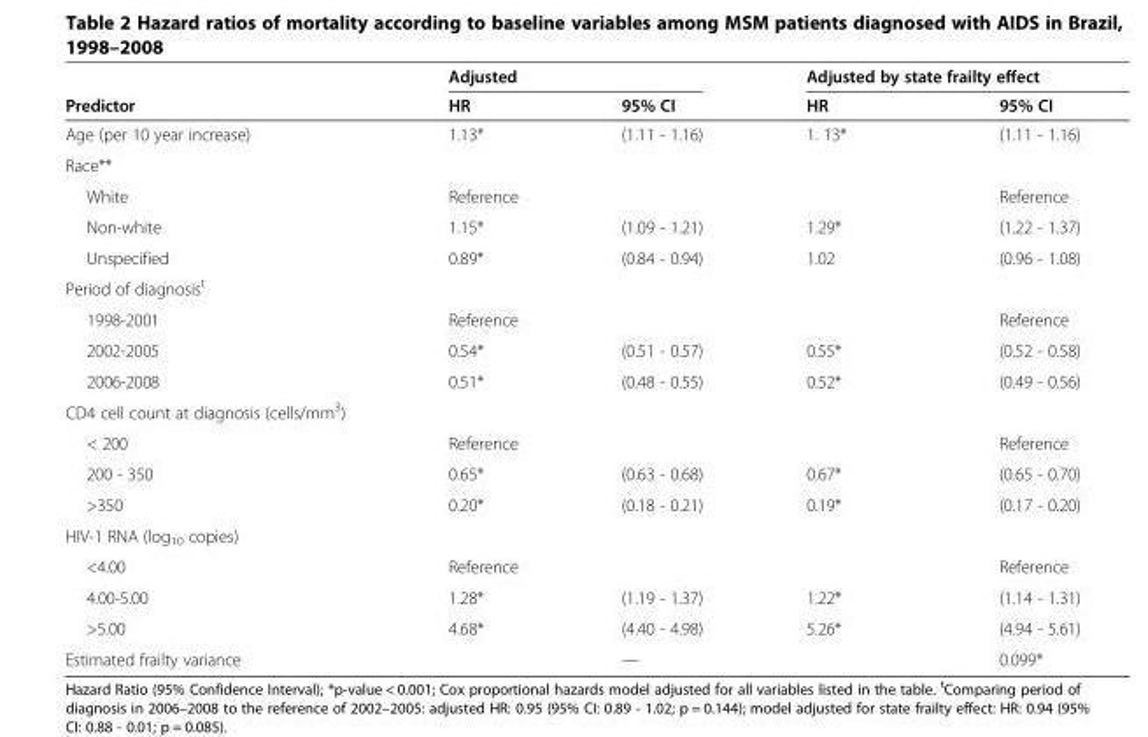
<table><thead><tr><td rowspan="2">Predictor</td><td colspan="2">Adjusted</td><td colspan="2">Adjusted by state frailty effect</td></tr><tr><td>HR</td><td>95% CI</td><td>HR</td><td>95% CI</td></tr></thead><tbody><tr><td>Age (per 10 year increase)</td><td>1.13*</td><td>(1.11 - 1.16)</td><td>1. 13*</td><td>(1.11 - 1.16)</td></tr><tr><td colspan="5">Race**</td></tr><tr><td>White</td><td>Reference</td><td></td><td></td><td>Reference</td></tr><tr><td>Non-white</td><td>1.15*</td><td>(1.09 - 1.21)</td><td>1.29*</td><td>(1.22 - 1.37)</td></tr><tr><td>Unspecified</td><td>0.89*</td><td>(0.84 - 0.94)</td><td>1.02</td><td>(0.96 - 1.08)</td></tr><tr><td colspan="5">Period of diagnosis<sup>t</sup></td></tr><tr><td>1998-2001</td><td>Reference</td><td></td><td></td><td>Reference</td></tr><tr><td>2002-2005</td><td>0.54*</td><td>(0.51 - 0.57)</td><td>0.55*</td><td>(0.52 - 0.58)</td></tr><tr><td>2006-2008</td><td>0.51*</td><td>(0.48 - 0.55)</td><td>0.52*</td><td>(0.49 - 0.56)</td></tr><tr><td colspan="5">CD4 cell count at diagnosis (cells/mm<sup>3</sup>)</td></tr><tr><td>&lt; 200</td><td>Reference</td><td></td><td></td><td>Reference</td></tr><tr><td>200 - 350</td><td>0.65*</td><td>(0.63 - 0.68)</td><td>0.67*</td><td>(0.65 - 0.70)</td></tr><tr><td>&gt;350</td><td>0.20*</td><td>(0.18 - 0.21)</td><td>0.19*</td><td>(0.17 - 0.20)</td></tr><tr><td colspan="5">HIV-1 RNA (log<sub>10</sub> copies)</td></tr><tr><td>&lt;4.00</td><td>Reference</td><td></td><td></td><td>Reference</td></tr><tr><td>4.00-5.00</td><td>1.28*</td><td>(1.19 - 1.37)</td><td>1.22*</td><td>(1.14 - 1.31)</td></tr><tr><td>&gt;5.00</td><td>4.68*</td><td>(4.40 - 4.98)</td><td>5.26*</td><td>(4.94 - 5.61)</td></tr><tr><td>Estimated frailty variance</td><td></td><td>—</td><td></td><td>0.099*</td></tr></tbody></table>